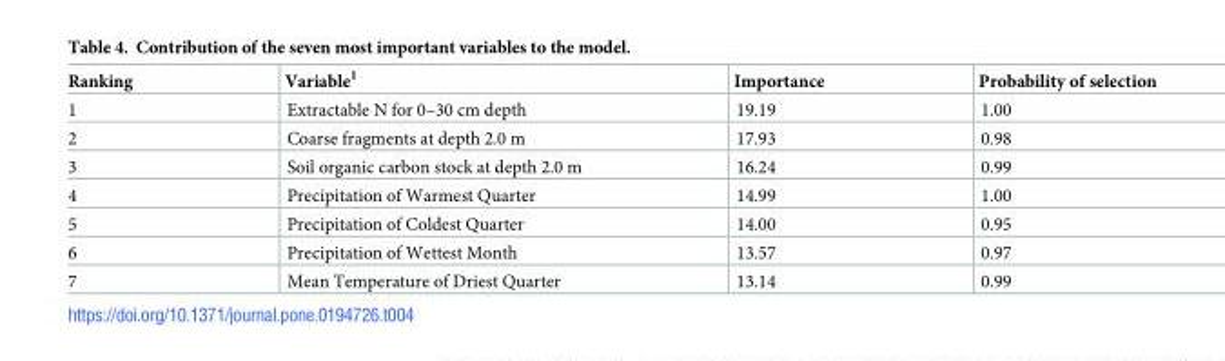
<table><thead><tr><td>Ranking</td><td>Variable<sup>1</sup></td><td>Importance</td><td>Probability of selection</td></tr></thead><tbody><tr><td>1</td><td>Extractable N for 0–30 cm depth</td><td>19.19</td><td>1.00</td></tr><tr><td>2</td><td>Coarse fragments at depth 2.0 m</td><td>17.93</td><td>0.98</td></tr><tr><td>3</td><td>Soil organic carbon stock at depth 2.0 m</td><td>16.24</td><td>0.99</td></tr><tr><td>4</td><td>Precipitation of Warmest Quarter</td><td>14.99</td><td>1.00</td></tr><tr><td>5</td><td>Precipitation of Coldest Quarter</td><td>14.00</td><td>0.95</td></tr><tr><td>6</td><td>Precipitation of Wettest Month</td><td>13.57</td><td>0.97</td></tr><tr><td>7</td><td>Mean Temperature of Driest Quarter</td><td>13.14</td><td>0.99</td></tr></tbody></table>